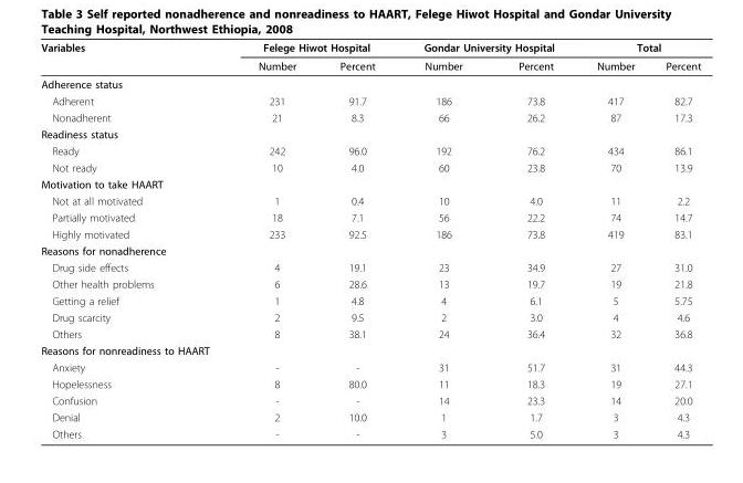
<table><thead><tr><td rowspan="2">Variables</td><td colspan="2">Felege Hiwot Hospital</td><td colspan="2">Gondar University Hospital</td><td colspan="2">Total</td></tr><tr><td>Number</td><td>Percent</td><td>Number</td><td>Percent</td><td>Number</td><td>Percent</td></tr></thead><tbody><tr><td colspan="7">Adherence status</td></tr><tr><td>Adherent</td><td>231</td><td>91.7</td><td>186</td><td>73.8</td><td>417</td><td>82.7</td></tr><tr><td>Nonadherent</td><td>21</td><td>8.3</td><td>66</td><td>26.2</td><td>87</td><td>17.3</td></tr><tr><td colspan="7">Readiness status</td></tr><tr><td>Ready</td><td>242</td><td>96.0</td><td>192</td><td>76.2</td><td>434</td><td>86.1</td></tr><tr><td>Not ready</td><td>10</td><td>4.0</td><td>60</td><td>23.8</td><td>70</td><td>13.9</td></tr><tr><td colspan="7">Motivation to take HAART</td></tr><tr><td>Not at all motivated</td><td>1</td><td>0.4</td><td>10</td><td>4.0</td><td>11</td><td>2.2</td></tr><tr><td>Partially motivated</td><td>18</td><td>7.1</td><td>56</td><td>22.2</td><td>74</td><td>14.7</td></tr><tr><td>Highly motivated</td><td>233</td><td>92.5</td><td>186</td><td>73.8</td><td>419</td><td>83.1</td></tr><tr><td colspan="7">Reasons for nonadherence</td></tr><tr><td>Drug side effects</td><td>4</td><td>19.1</td><td>23</td><td>34.9</td><td>27</td><td>31.0</td></tr><tr><td>Other health problems</td><td>6</td><td>28.6</td><td>13</td><td>19.7</td><td>19</td><td>21.8</td></tr><tr><td>Getting a relief</td><td>1</td><td>4.8</td><td>4</td><td>6.1</td><td>5</td><td>5.75</td></tr><tr><td>Drug scarcity</td><td>2</td><td>9.5</td><td>2</td><td>3.0</td><td>4</td><td>4.6</td></tr><tr><td>Others</td><td>8</td><td>38.1</td><td>24</td><td>36.4</td><td>32</td><td>36.8</td></tr><tr><td colspan="7">Reasons for nonreadiness to HAART</td></tr><tr><td>Anxiety</td><td>-</td><td>-</td><td>31</td><td>51.7</td><td>31</td><td>44.3</td></tr><tr><td>Hopelessness</td><td>8</td><td>80.0</td><td>11</td><td>18.3</td><td>19</td><td>27.1</td></tr><tr><td>Confusion</td><td>-</td><td>-</td><td>14</td><td>23.3</td><td>14</td><td>20.0</td></tr><tr><td>Denial</td><td>2</td><td>10.0</td><td>1</td><td>1.7</td><td>3</td><td>4.3</td></tr><tr><td>Others</td><td>-</td><td>-</td><td>3</td><td>5.0</td><td>3</td><td>4.3</td></tr></tbody></table>